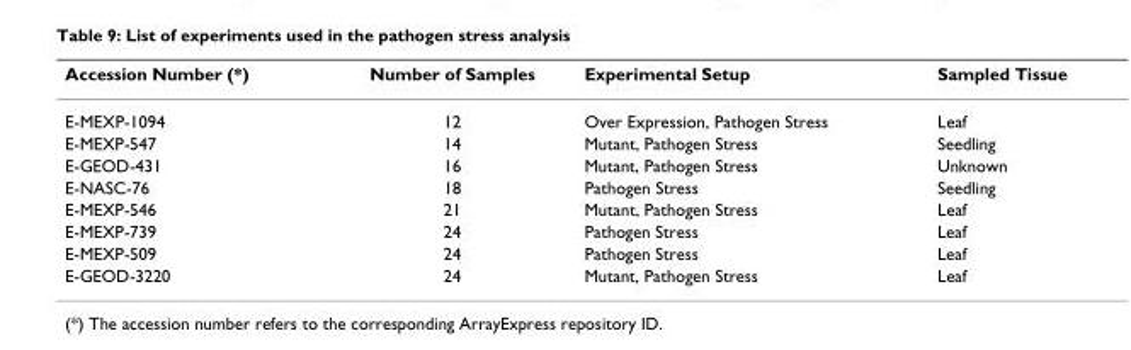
<table><thead><tr><td>Accession Number (*)</td><td>Number of Samples</td><td>Experimental Setup</td><td>Sampled Tissue</td></tr></thead><tbody><tr><td>E-MEXP-1094</td><td>12</td><td>Over Expression, Pathogen Stress</td><td>Leaf</td></tr><tr><td>E-MEXP-547</td><td>14</td><td>Mutant, Pathogen Stress</td><td>Seedling</td></tr><tr><td>E-GEOD-431</td><td>16</td><td>Mutant, Pathogen Stress</td><td>Unknown</td></tr><tr><td>E-NASC-76</td><td>18</td><td>Pathogen Stress</td><td>Seedling</td></tr><tr><td>E-MEXP-546</td><td>21</td><td>Mutant, Pathogen Stress</td><td>Leaf</td></tr><tr><td>E-MEXP-739</td><td>24</td><td>Pathogen Stress</td><td>Leaf</td></tr><tr><td>E-MEXP-509</td><td>24</td><td>Pathogen Stress</td><td>Leaf</td></tr><tr><td>E-GEOD-3220</td><td>24</td><td>Mutant, Pathogen Stress</td><td>Leaf</td></tr></tbody></table>